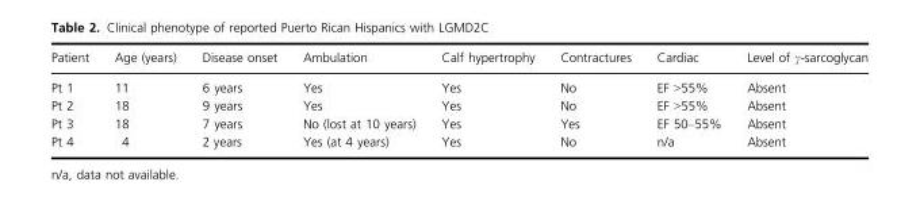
<table><thead><tr><td>Patient</td><td>Age (years)</td><td>Disease onset</td><td>Ambulation</td><td>Calf hypertrophy</td><td>Contractures</td><td>Cardiac</td><td>Level of γ-sarcoglycan</td></tr></thead><tbody><tr><td>Pt 1</td><td>11</td><td>6 years</td><td>Yes</td><td>Yes</td><td>No</td><td>EF &gt;55%</td><td>Absent</td></tr><tr><td>Pt 2</td><td>18</td><td>9 years</td><td>Yes</td><td>Yes</td><td>No</td><td>EF &gt;55%</td><td>Absent</td></tr><tr><td>Pt 3</td><td>18</td><td>7 years</td><td>No (lost at 10 years)</td><td>Yes</td><td>Yes</td><td>EF 50–55%</td><td>Absent</td></tr><tr><td>Pt 4</td><td>4</td><td>2 years</td><td>Yes (at 4 years)</td><td>Yes</td><td>No</td><td>n/a</td><td>Absent</td></tr></tbody></table>